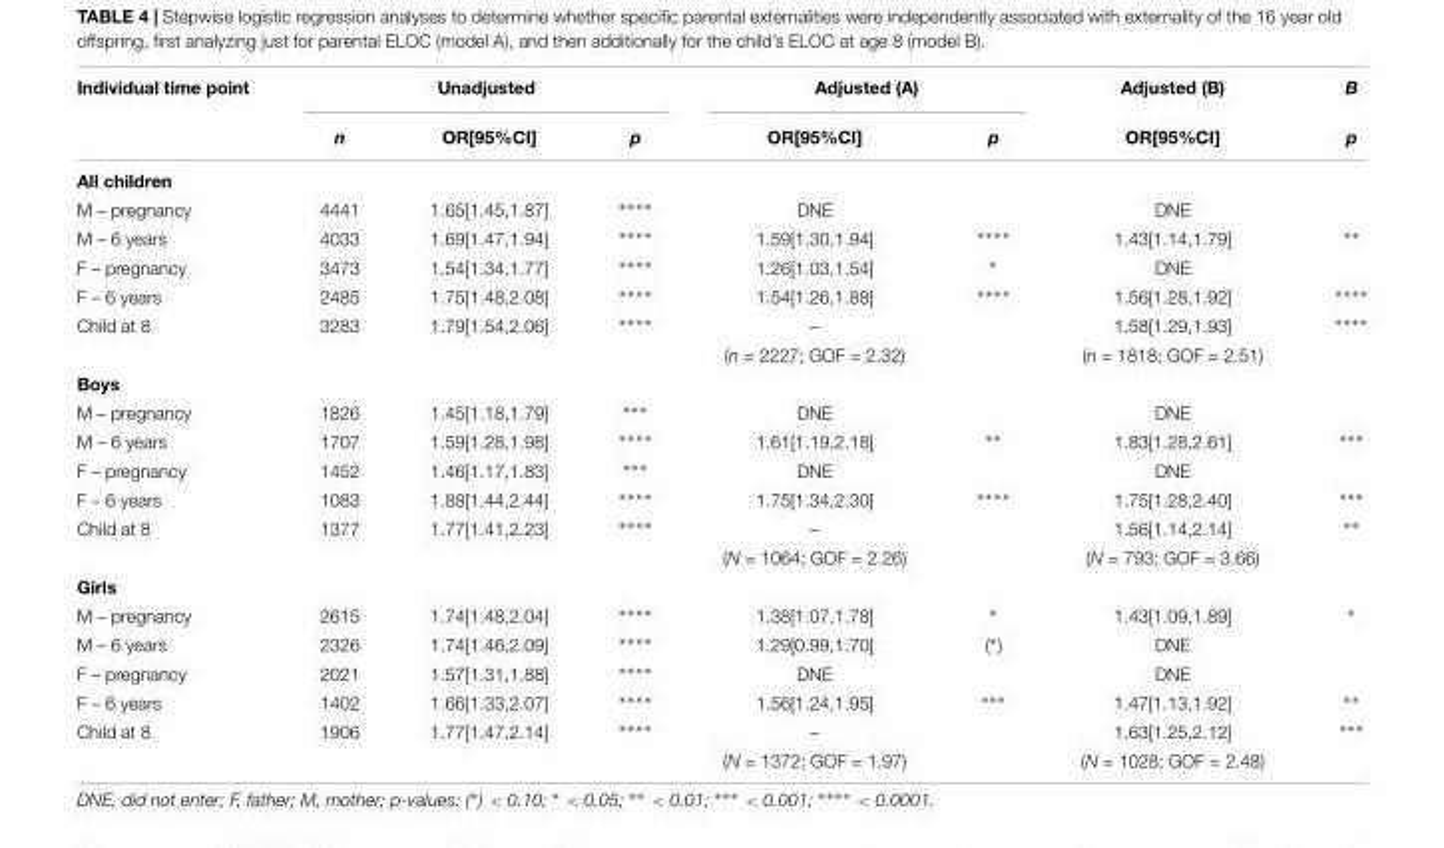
<table><thead><tr><td rowspan="2">Individual time point</td><td colspan="3">Unadjusted</td><td colspan="2">Adjusted (A)</td><td rowspan="2">Adjusted (B) OR[95%CI]</td><td rowspan="2">B p</td></tr><tr><td>n</td><td>OR[95%CI]</td><td>p</td><td>OR[95%CI]</td><td>p</td></tr></thead><tbody><tr><td colspan="8">All children</td></tr><tr><td>M – pregnancy</td><td>4441</td><td>1.65[1.45,1.87]</td><td>∗∗∗∗</td><td>DNE</td><td></td><td>DNE</td><td></td></tr><tr><td>M – 6 years</td><td>4033</td><td>1.69[1.47,1.94]</td><td>∗∗∗∗</td><td>1.59[1.30,1.94]</td><td>∗∗∗∗</td><td>1.43[1.14,1.79]</td><td>∗∗</td></tr><tr><td>F – pregnancy</td><td>3473</td><td>1.54[1.34,1.77]</td><td>∗∗∗∗</td><td>1.26[1.03,1.54]</td><td>∗</td><td>DNE</td><td></td></tr><tr><td>F – 6 years</td><td>2485</td><td>1.75[1.48,2.08]</td><td>∗∗∗∗</td><td>1.54[1.26,1.88]</td><td>∗∗∗∗</td><td>1.56[1.28,1.92]</td><td>∗∗∗∗</td></tr><tr><td rowspan="2">Child at 8</td><td>3283</td><td>1.79[1.54,2.06]</td><td>∗∗∗∗</td><td>–</td><td></td><td>1.58[1.29,1.93]</td><td>∗∗∗∗</td></tr><tr><td></td><td></td><td></td><td>(n = 2227; GOF = 2.32)</td><td></td><td>(n = 1818; GOF = 2.51)</td><td></td></tr><tr><td colspan="8">Boys</td></tr><tr><td>M – pregnancy</td><td>1826</td><td>1.45[1.18,1.79]</td><td>∗∗∗</td><td>DNE</td><td></td><td>DNE</td><td></td></tr><tr><td>M – 6 years</td><td>1707</td><td>1.59[1.28,1.98]</td><td>∗∗∗∗</td><td>1.61[1.19,2.18]</td><td>∗∗</td><td>1.83[1.28,2.61]</td><td>∗∗∗</td></tr><tr><td>F – pregnancy</td><td>1452</td><td>1.46[1.17,1.83]</td><td>∗∗∗</td><td>DNE</td><td></td><td>DNE</td><td></td></tr><tr><td>F – 6 years</td><td>1083</td><td>1.88[1.44,2.44]</td><td>∗∗∗∗</td><td>1.75[1.34,2.30]</td><td>∗∗∗∗</td><td>1.75[1.28,2.40]</td><td>∗∗∗</td></tr><tr><td rowspan="2">Child at 8</td><td>1377</td><td>1.77[1.41,2.23]</td><td>∗∗∗∗</td><td>–</td><td></td><td>1.56[1.14,2.14]</td><td>∗∗</td></tr><tr><td></td><td></td><td></td><td>(N = 1064; GOF = 2.26)</td><td></td><td>(N = 793; GOF = 3.66)</td><td></td></tr><tr><td colspan="8">Girls</td></tr><tr><td>M – pregnancy</td><td>2615</td><td>1.74[1.48,2.04]</td><td>∗∗∗∗</td><td>1.38[1.07,1.78]</td><td>∗</td><td>1.43[1.09,1.89]</td><td>∗</td></tr><tr><td>M – 6 years</td><td>2326</td><td>1.74[1.46,2.09]</td><td>∗∗∗∗</td><td>1.29[0.99,1.70]</td><td>(∗)</td><td>DNE</td><td></td></tr><tr><td>F – pregnancy</td><td>2021</td><td>1.57[1.31,1.88]</td><td>∗∗∗∗</td><td>DNE</td><td></td><td>DNE</td><td></td></tr><tr><td>F – 6 years</td><td>1402</td><td>1.66[1.33,2.07]</td><td>∗∗∗∗</td><td>1.56[1.24,1.95]</td><td>∗∗∗</td><td>1.47[1.13,1.92]</td><td>∗∗</td></tr><tr><td rowspan="2">Child at 8</td><td>1906</td><td>1.77[1.47,2.14]</td><td>∗∗∗∗</td><td>–</td><td></td><td>1.63[1.25,2.12]</td><td>∗∗∗</td></tr><tr><td></td><td></td><td></td><td>(N = 1372; GOF = 1.97)</td><td></td><td>(N = 1028; GOF = 2.48)</td><td></td></tr></tbody></table>